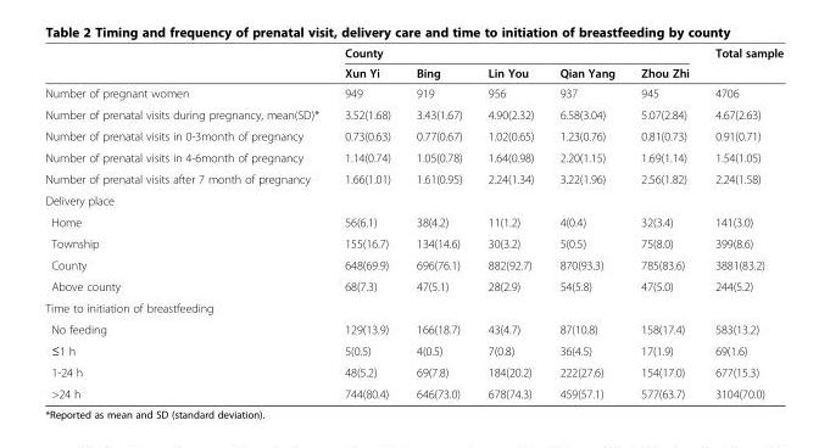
<table><thead><tr><td rowspan="2"></td><td colspan="5">County</td><td rowspan="2">Total sample</td></tr><tr><td>Xun Yi</td><td>Bing</td><td>Lin You</td><td>Qian Yang</td><td>Zhou Zhi</td></tr></thead><tbody><tr><td>Number of pregnant women</td><td>949</td><td>919</td><td>956</td><td>937</td><td>945</td><td>4706</td></tr><tr><td>Number of prenatal visits during pregnancy, mean(SD)*</td><td>3.52(1.68)</td><td>3.43(1.67)</td><td>4.90(2.32)</td><td>6.58(3.04)</td><td>5.07(2.84)</td><td>4.67(2.63)</td></tr><tr><td>Number of prenatal visits in 0-3month of pregnancy</td><td>0.73(0.63)</td><td>0.77(0.67)</td><td>1.02(0.65)</td><td>1.23(0.76)</td><td>0.81(0.73)</td><td>0.91(0.71)</td></tr><tr><td>Number of prenatal visits in 4-6month of pregnancy</td><td>1.14(0.74)</td><td>1.05(0.78)</td><td>1.64(0.98)</td><td>2.20(1.15)</td><td>1.69(1.14)</td><td>1.54(1.05)</td></tr><tr><td>Number of prenatal visits after 7 month of pregnancy</td><td>1.66(1.01)</td><td>1.61(0.95)</td><td>2.24(1.34)</td><td>3.22(1.96)</td><td>2.56(1.82)</td><td>2.24(1.58)</td></tr><tr><td colspan="7">Delivery place</td></tr><tr><td>Home</td><td>56(6.1)</td><td>38(4.2)</td><td>11(1.2)</td><td>4(0.4)</td><td>32(3.4)</td><td>141(3.0)</td></tr><tr><td>Township</td><td>155(16.7)</td><td>134(14.6)</td><td>30(3.2)</td><td>5(0.5)</td><td>75(8.0)</td><td>399(8.6)</td></tr><tr><td>County</td><td>648(69.9)</td><td>696(76.1)</td><td>882(92.7)</td><td>870(93.3)</td><td>785(83.6)</td><td>3881(83.2)</td></tr><tr><td>Above county</td><td>68(7.3)</td><td>47(5.1)</td><td>28(2.9)</td><td>54(5.8)</td><td>47(5.0)</td><td>244(5.2)</td></tr><tr><td colspan="7">Time to initiation of breastfeeding</td></tr><tr><td>No feeding</td><td>129(13.9)</td><td>166(18.7)</td><td>43(4.7)</td><td>87(10.8)</td><td>158(17.4)</td><td>583(13.2)</td></tr><tr><td>≤1 h</td><td>5(0.5)</td><td>4(0.5)</td><td>7(0.8)</td><td>36(4.5)</td><td>17(1.9)</td><td>69(1.6)</td></tr><tr><td>1-24 h</td><td>48(5.2)</td><td>69(7.8)</td><td>184(20.2)</td><td>222(27.6)</td><td>154(17.0)</td><td>677(15.3)</td></tr><tr><td>&gt;24 h</td><td>744(80.4)</td><td>646(73.0)</td><td>678(74.3)</td><td>459(57.1)</td><td>577(63.7)</td><td>3104(70.0)</td></tr></tbody></table>